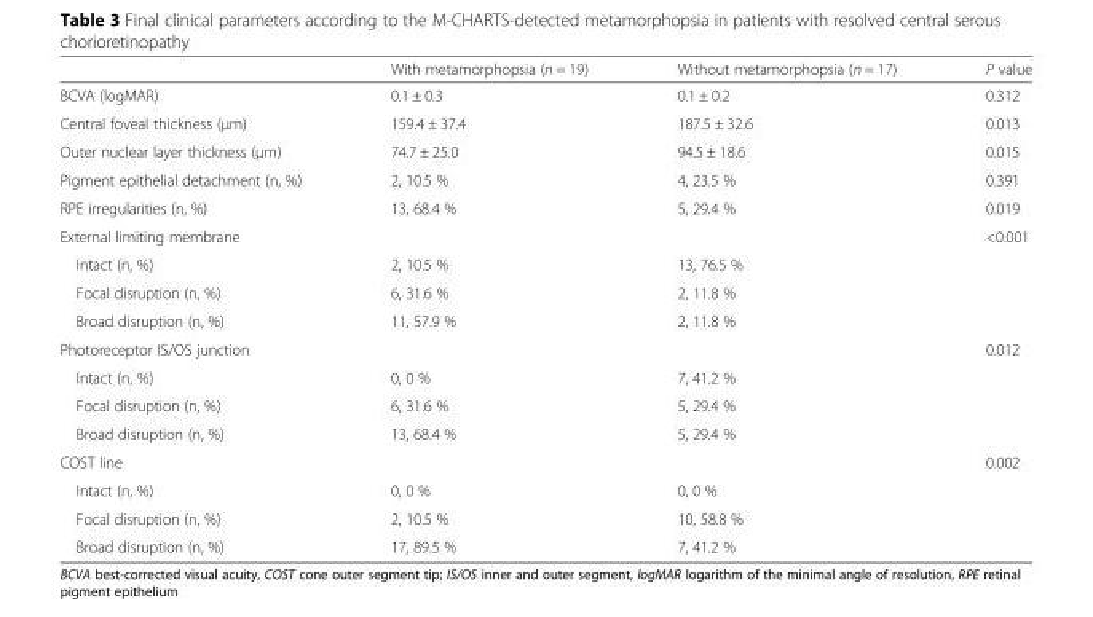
<table><thead><tr><td></td><td>With metamorphopsia (n = 19)</td><td>Without metamorphopsia (n = 17)</td><td>P value</td></tr></thead><tbody><tr><td>BCVA (logMAR)</td><td>0.1 ± 0.3</td><td>0.1 ± 0.2</td><td>0.312</td></tr><tr><td>Central foveal thickness (μm)</td><td>159.4 ± 37.4</td><td>187.5 ± 32.6</td><td>0.013</td></tr><tr><td>Outer nuclear layer thickness (μm)</td><td>74.7 ± 25.0</td><td>94.5 ± 18.6</td><td>0.015</td></tr><tr><td>Pigment epithelial detachment (n, %)</td><td>2, 10.5 %</td><td>4, 23.5 %</td><td>0.391</td></tr><tr><td>RPE irregularities (n, %)</td><td>13, 68.4 %</td><td>5, 29.4 %</td><td>0.019</td></tr><tr><td>External limiting membrane</td><td></td><td></td><td>&lt;0.001</td></tr><tr><td>Intact (n, %)</td><td>2, 10.5 %</td><td>13, 76.5 %</td><td></td></tr><tr><td>Focal disruption (n, %)</td><td>6, 31.6 %</td><td>2, 11.8 %</td><td></td></tr><tr><td>Broad disruption (n, %)</td><td>11, 57.9 %</td><td>2, 11.8 %</td><td></td></tr><tr><td>Photoreceptor IS/OS junction</td><td></td><td></td><td>0.012</td></tr><tr><td>Intact (n, %)</td><td>0, 0 %</td><td>7, 41.2 %</td><td></td></tr><tr><td>Focal disruption (n, %)</td><td>6, 31.6 %</td><td>5, 29.4 %</td><td></td></tr><tr><td>Broad disruption (n, %)</td><td>13, 68.4 %</td><td>5, 29.4 %</td><td></td></tr><tr><td>COST line</td><td></td><td></td><td>0.002</td></tr><tr><td>Intact (n, %)</td><td>0, 0 %</td><td>0, 0 %</td><td></td></tr><tr><td>Focal disruption (n, %)</td><td>2, 10.5 %</td><td>10, 58.8 %</td><td></td></tr><tr><td>Broad disruption (n, %)</td><td>17, 89.5 %</td><td>7, 41.2 %</td><td></td></tr></tbody></table>